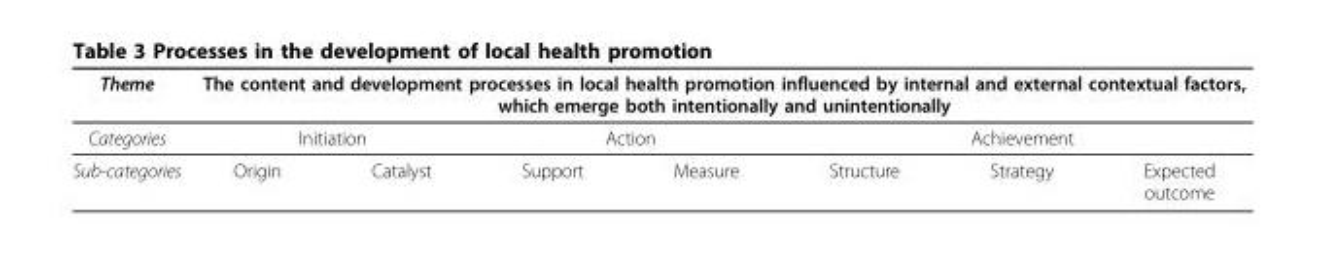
<table><thead><tr><td rowspan="3">Theme Categories Sub-categories</td><td colspan="7">The content and development processes in local health promotion influenced by internal and external contextual factors, which emerge both intentionally and unintentionally</td></tr><tr><td colspan="2">Initiation</td><td colspan="2">Action</td><td colspan="3">Achievement</td></tr><tr><td>Origin</td><td>Catalyst</td><td>Support</td><td>Measure</td><td>Structure</td><td>Strategy</td><td>Expected outcome</td></tr></thead><tbody></tbody></table>